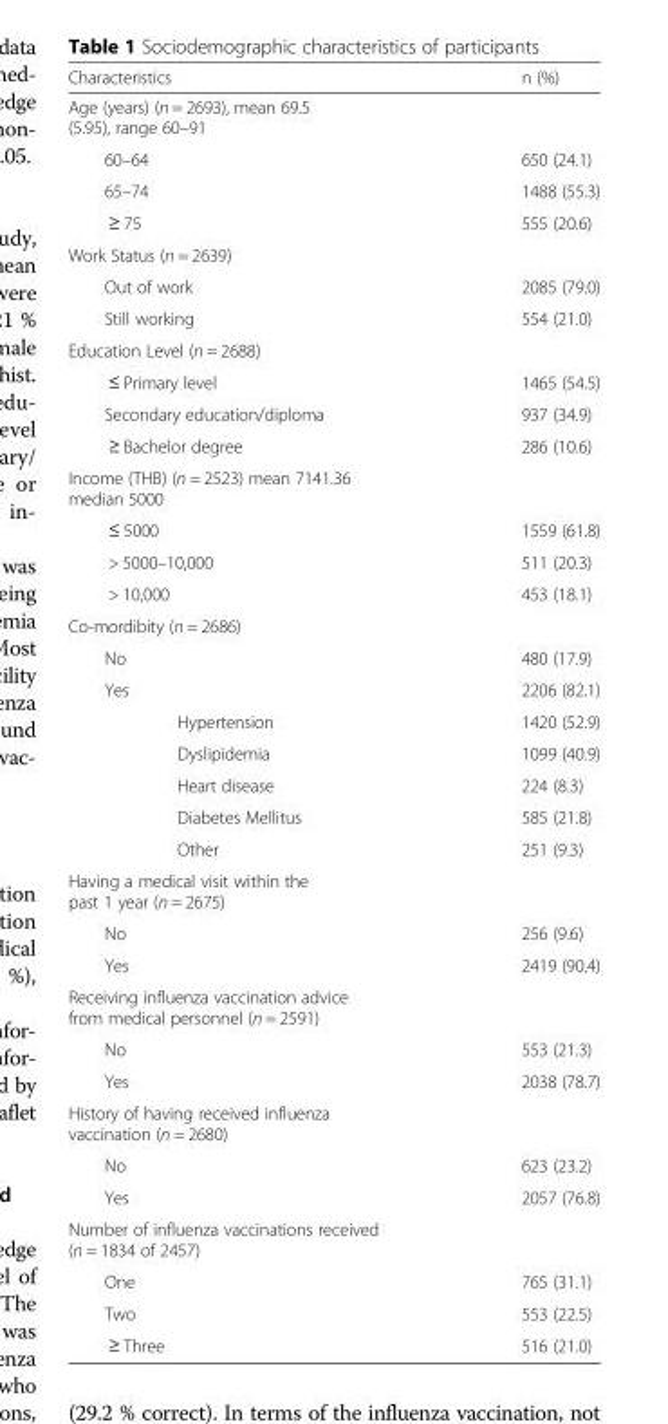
<table><thead><tr><td>Characteristics</td><td>n (%)</td></tr></thead><tbody><tr><td colspan="2">Age (years) (n = 2693), mean 69.5 (5.95), range 60–91</td></tr><tr><td>60–64</td><td>650 (24.1)</td></tr><tr><td>65–74</td><td>1488 (55.3)</td></tr><tr><td>≥ 75</td><td>555 (20.6)</td></tr><tr><td colspan="2">Work Status (n = 2639)</td></tr><tr><td>Out of work</td><td>2085 (79.0)</td></tr><tr><td>Still working</td><td>554 (21.0)</td></tr><tr><td colspan="2">Education Level (n = 2688)</td></tr><tr><td>≤ Primary level</td><td>1465 (54.5)</td></tr><tr><td>Secondary education/diploma</td><td>937 (34.9)</td></tr><tr><td>≥ Bachelor degree</td><td>286 (10.6)</td></tr><tr><td colspan="2">Income (THB) (n = 2523) mean 7141.36 median 5000</td></tr><tr><td>≤ 5000</td><td>1559 (61.8)</td></tr><tr><td>&gt; 5000–10,000</td><td>511 (20.3)</td></tr><tr><td>&gt; 10,000</td><td>453 (18.1)</td></tr><tr><td colspan="2">Co-mordibity (n = 2686)</td></tr><tr><td>No</td><td>480 (17.9)</td></tr><tr><td>Yes</td><td>2206 (82.1)</td></tr><tr><td>Hypertension</td><td>1420 (52.9)</td></tr><tr><td>Dyslipidemia</td><td>1099 (40.9)</td></tr><tr><td>Heart disease</td><td>224 (8.3)</td></tr><tr><td>Diabetes Mellitus</td><td>585 (21.8)</td></tr><tr><td>Other</td><td>251 (9.3)</td></tr><tr><td colspan="2">Having a medical visit within the past 1 year (n = 2675)</td></tr><tr><td>No</td><td>256 (9.6)</td></tr><tr><td>Yes</td><td>2419 (90.4)</td></tr><tr><td colspan="2">Receiving influenza vaccination advice from medical personnel (n = 2591)</td></tr><tr><td>No</td><td>553 (21.3)</td></tr><tr><td>Yes</td><td>2038 (78.7)</td></tr><tr><td colspan="2">History of having received influenza vaccination (n = 2680)</td></tr><tr><td>No</td><td>623 (23.2)</td></tr><tr><td>Yes</td><td>2057 (76.8)</td></tr><tr><td colspan="2">Number of influenza vaccinations received (n = 1834 of 2457)</td></tr><tr><td>One</td><td>765 (31.1)</td></tr><tr><td>Two</td><td>553 (22.5)</td></tr><tr><td>≥ Three</td><td>516 (21.0)</td></tr></tbody></table>